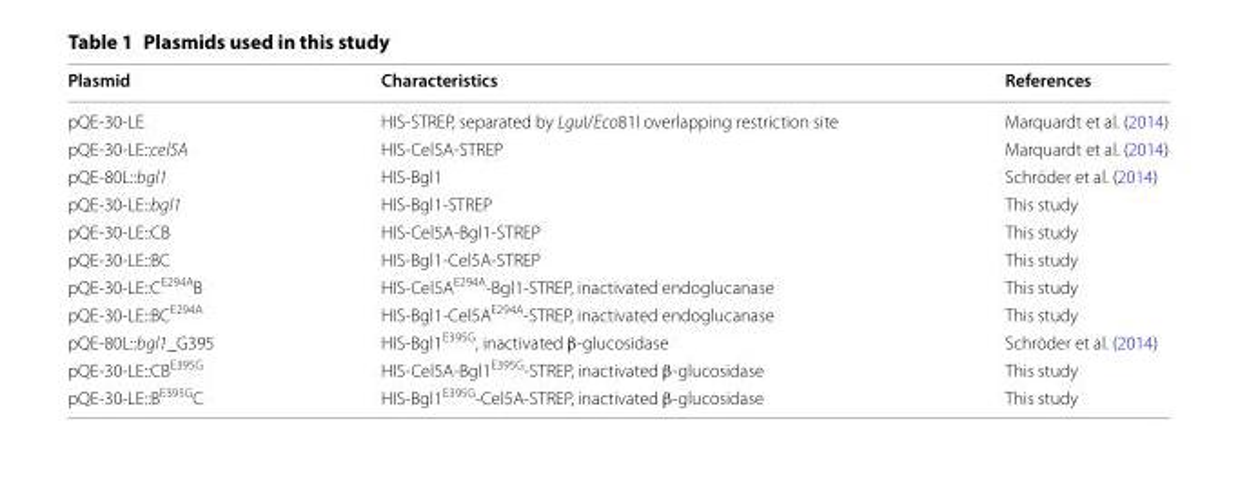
<table><thead><tr><td>Plasmid</td><td>Characteristics</td><td>References</td></tr></thead><tbody><tr><td>pQE-30-LE</td><td>HIS-STREP, separated by LguI/Eco81I overlapping restriction site</td><td>Marquardt et al. (2014)</td></tr><tr><td>pQE-30-LE::cel5A</td><td>HIS-Cel5A-STREP</td><td>Marquardt et al. (2014)</td></tr><tr><td>pQE-80L::bgl1</td><td>HIS-Bgl1</td><td>Schröder et al. (2014)</td></tr><tr><td>pQE-30-LE::bgl1</td><td>HIS-Bgl1-STREP</td><td>This study</td></tr><tr><td>pQE-30-LE::CB</td><td>HIS-Cel5A-Bgl1-STREP</td><td>This study</td></tr><tr><td>pQE-30-LE::BC</td><td>HIS-Bgl1-Cel5A-STREP</td><td>This study</td></tr><tr><td>pQE-30-LE::C<sup>E294A</sup>B</td><td>HIS-Cel5A<sup>E294A</sup>-Bgl1-STREP, inactivated endoglucanase</td><td>This study</td></tr><tr><td>pQE-30-LE::BC<sup>E294A</sup></td><td>HIS-Bgl1-Cel5A<sup>E294A</sup>-STREP, inactivated endoglucanase</td><td>This study</td></tr><tr><td>pQE-80L::bgl1_G395</td><td>HIS-Bgl1<sup>E395G</sup>, inactivated β-glucosidase</td><td>Schröder et al. (2014)</td></tr><tr><td>pQE-30-LE::CB<sup>E395G</sup></td><td>HIS-Cel5A-Bgl1<sup>E395G</sup>-STREP, inactivated β-glucosidase</td><td>This study</td></tr><tr><td>pQE-30-LE::B<sup>E395G</sup>C</td><td>HIS-Bgl1<sup>E395G</sup>-Cel5A-STREP, inactivated β-glucosidase</td><td>This study</td></tr></tbody></table>